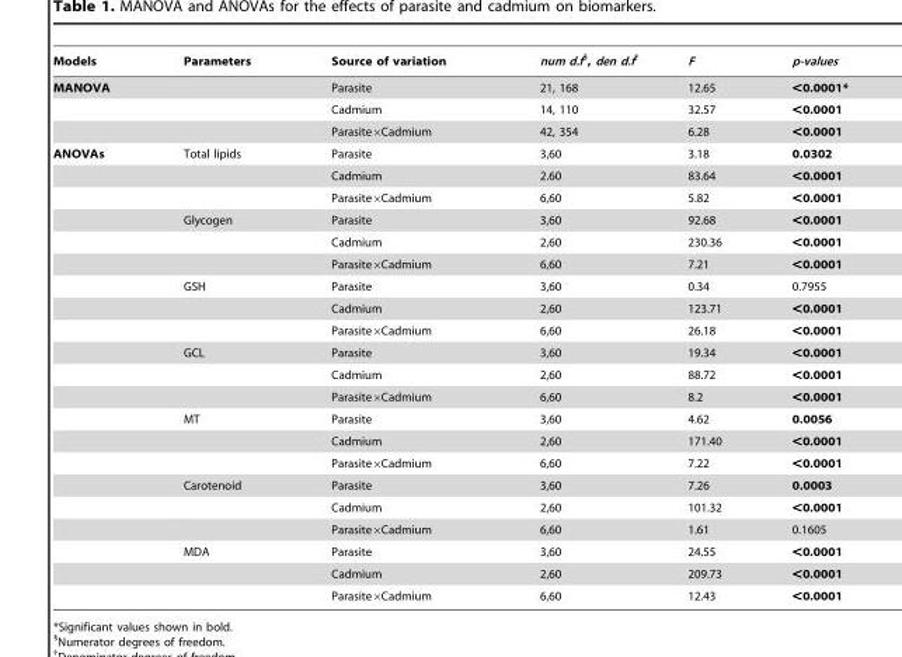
<table><thead><tr><td>Models</td><td>Parameters</td><td>Source of variation</td><td>num d.f§, den d.f†</td><td>F</td><td>p-values</td></tr></thead><tbody><tr><td rowspan="3">MANOVA</td><td></td><td>Parasite</td><td>21, 168</td><td>12.65</td><td>&lt;0.0001*</td></tr><tr><td></td><td>Cadmium</td><td>14, 110</td><td>32.57</td><td>&lt;0.0001</td></tr><tr><td></td><td>Parasite×Cadmium</td><td>42, 354</td><td>6.28</td><td>&lt;0.0001</td></tr><tr><td rowspan="21">ANOVAs</td><td>Total lipids</td><td>Parasite</td><td>3,60</td><td>3.18</td><td>0.0302</td></tr><tr><td></td><td>Cadmium</td><td>2.60</td><td>83.64</td><td>&lt;0.0001</td></tr><tr><td></td><td>Parasite×Cadmium</td><td>6,60</td><td>5.82</td><td>&lt;0.0001</td></tr><tr><td>Glycogen</td><td>Parasite</td><td>3,60</td><td>92.68</td><td>&lt;0.0001</td></tr><tr><td></td><td>Cadmium</td><td>2,60</td><td>230.36</td><td>&lt;0.0001</td></tr><tr><td></td><td>Parasite×Cadmium</td><td>6,60</td><td>7.21</td><td>&lt;0.0001</td></tr><tr><td>GSH</td><td>Parasite</td><td>3,60</td><td>0.34</td><td>0.7955</td></tr><tr><td></td><td>Cadmium</td><td>2,60</td><td>123.71</td><td>&lt;0.0001</td></tr><tr><td></td><td>Parasite×Cadmium</td><td>6,60</td><td>26.18</td><td>&lt;0.0001</td></tr><tr><td>GCL</td><td>Parasite</td><td>3,60</td><td>19.34</td><td>&lt;0.0001</td></tr><tr><td></td><td>Cadmium</td><td>2,60</td><td>88.72</td><td>&lt;0.0001</td></tr><tr><td></td><td>Parasite×Cadmium</td><td>6,60</td><td>8.2</td><td>&lt;0.0001</td></tr><tr><td>MT</td><td>Parasite</td><td>3,60</td><td>4.62</td><td>0.0056</td></tr><tr><td></td><td>Cadmium</td><td>2,60</td><td>171.40</td><td>&lt;0.0001</td></tr><tr><td></td><td>Parasite×Cadmium</td><td>6,60</td><td>7.22</td><td>&lt;0.0001</td></tr><tr><td>Carotenoid</td><td>Parasite</td><td>3,60</td><td>7.26</td><td>0.0003</td></tr><tr><td></td><td>Cadmium</td><td>2,60</td><td>101.32</td><td>&lt;0.0001</td></tr><tr><td></td><td>Parasite×Cadmium</td><td>6,60</td><td>1.61</td><td>0.1605</td></tr><tr><td>MDA</td><td>Parasite</td><td>3,60</td><td>24.55</td><td>&lt;0.0001</td></tr><tr><td></td><td>Cadmium</td><td>2,60</td><td>209.73</td><td>&lt;0.0001</td></tr><tr><td></td><td>Parasite×Cadmium</td><td>6,60</td><td>12.43</td><td>&lt;0.0001</td></tr></tbody></table>